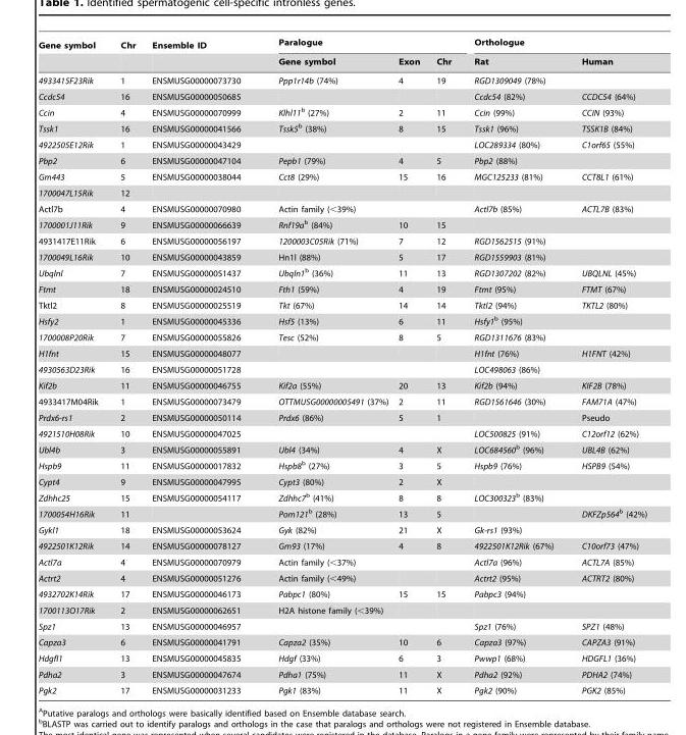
<table><thead><tr><td rowspan="2">Gene symbol</td><td rowspan="2">Chr</td><td rowspan="2">Ensemble ID</td><td colspan="3">Paralogue</td><td colspan="2">Orthologue</td></tr><tr><td>Gene symbol</td><td>Exon</td><td>Chr</td><td>Rat</td><td>Human</td></tr></thead><tbody><tr><td>4933415F23Rik</td><td>1</td><td>ENSMUSG00000073730</td><td>Ppp1r14b (74%)</td><td>4</td><td>19</td><td>RGD1309049 (78%)</td><td></td></tr><tr><td>Ccdc54</td><td>16</td><td>ENSMUSG00000050685</td><td></td><td></td><td></td><td>Ccdc54 (82%)</td><td>CCDC54 (64%)</td></tr><tr><td>Ccin</td><td>4</td><td>ENSMUSG00000070999</td><td>Klhl11b (27%)</td><td>2</td><td>11</td><td>Ccin (99%)</td><td>CCIN (93%)</td></tr><tr><td>Tssk1</td><td>16</td><td>ENSMUSG00000041566</td><td>Tssk5b (38%)</td><td>8</td><td>15</td><td>Tssk1 (96%)</td><td>TSSK1B (84%)</td></tr><tr><td>4922505E12Rik</td><td>1</td><td>ENSMUSG00000043429</td><td></td><td></td><td></td><td>LOC289334 (80%)</td><td>C1orf65 (55%)</td></tr><tr><td>Pbp2</td><td>6</td><td>ENSMUSG00000047104</td><td>Pepb1 (79%)</td><td>4</td><td>5</td><td>Pbp2 (88%)</td><td></td></tr><tr><td>Gm443</td><td>5</td><td>ENSMUSG00000038044</td><td>Cct8 (29%)</td><td>15</td><td>16</td><td>MGC125233 (81%)</td><td>CCT8L1 (61%)</td></tr><tr><td>1700047L15Rik</td><td>12</td><td></td><td></td><td></td><td></td><td></td><td></td></tr><tr><td>Actl7b</td><td>4</td><td>ENSMUSG00000070980</td><td>Actin family (&lt;39%)</td><td></td><td></td><td>Actl7b (85%)</td><td>ACTL7B (83%)</td></tr><tr><td>1700001J11Rik</td><td>9</td><td>ENSMUSG00000066639</td><td>Rnf19ab (84%)</td><td>10</td><td>15</td><td></td><td></td></tr><tr><td>4931417E11Rik</td><td>6</td><td>ENSMUSG00000056197</td><td>1200003C05Rik (71%)</td><td>7</td><td>12</td><td>RGD1562515 (91%)</td><td></td></tr><tr><td>1700049L16Rik</td><td>10</td><td>ENSMUSG00000043859</td><td>Hn1l (88%)</td><td>5</td><td>17</td><td>RGD1559903 (81%)</td><td></td></tr><tr><td>Ubqlnl</td><td>7</td><td>ENSMUSG00000051437</td><td>Ubqln1b (36%)</td><td>11</td><td>13</td><td>RGD1307202 (82%)</td><td>UBQLNL (45%)</td></tr><tr><td>Ftmt</td><td>18</td><td>ENSMUSG00000024510</td><td>Fth1 (59%)</td><td>4</td><td>19</td><td>Ftmt (95%)</td><td>FTMT (67%)</td></tr><tr><td>Tktl2</td><td>8</td><td>ENSMUSG00000025519</td><td>Tkt (67%)</td><td>14</td><td>14</td><td>Tktl2 (94%)</td><td>TKTL2 (80%)</td></tr><tr><td>Hsfy2</td><td>1</td><td>ENSMUSG00000045336</td><td>Hsf5 (13%)</td><td>6</td><td>11</td><td>Hsfy1b (95%)</td><td></td></tr><tr><td>1700008P20Rik</td><td>7</td><td>ENSMUSG00000055826</td><td>Tesc (52%)</td><td>8</td><td>5</td><td>RGD1311676 (83%)</td><td></td></tr><tr><td>H1fnt</td><td>15</td><td>ENSMUSG00000048077</td><td></td><td></td><td></td><td>H1fnt (76%)</td><td>H1FNT (42%)</td></tr><tr><td>4930563D23Rik</td><td>16</td><td>ENSMUSG00000051728</td><td></td><td></td><td></td><td>LOC498063 (86%)</td><td></td></tr><tr><td>Kif2b</td><td>11</td><td>ENSMUSG00000046755</td><td>Kif2a (55%)</td><td>20</td><td>13</td><td>Kif2b (94%)</td><td>KIF2B (78%)</td></tr><tr><td>4933417M04Rik</td><td>1</td><td>ENSMUSG00000073479</td><td>OTTMUSG00000005491 (37%)</td><td>2</td><td>11</td><td>RGD1561646 (30%)</td><td>FAM71A (47%)</td></tr><tr><td>Prdx6-rs1</td><td>2</td><td>ENSMUSG00000050114</td><td>Prdx6 (86%)</td><td>5</td><td>1</td><td></td><td>Pseudo</td></tr><tr><td>4921510H08Rik</td><td>10</td><td>ENSMUSG00000047025</td><td></td><td></td><td></td><td>LOC500825 (91%)</td><td>C12orf12 (62%)</td></tr><tr><td>Ubl4b</td><td>3</td><td>ENSMUSG00000055891</td><td>Ubl4 (34%)</td><td>4</td><td>X</td><td>LOC684560b (96%)</td><td>UBL4B (62%)</td></tr><tr><td>Hspb9</td><td>11</td><td>ENSMUSG00000017832</td><td>Hspb8b (27%)</td><td>3</td><td>5</td><td>Hspb9 (76%)</td><td>HSPB9 (54%)</td></tr><tr><td>Cypt4</td><td>9</td><td>ENSMUSG00000047995</td><td>Cypt3 (80%)</td><td>2</td><td>X</td><td></td><td></td></tr><tr><td>Zdhhc25</td><td>15</td><td>ENSMUSG00000054117</td><td>Zdhhc7b (41%)</td><td>8</td><td>8</td><td>LOC300323b (83%)</td><td></td></tr><tr><td>1700054H16Rik</td><td>11</td><td></td><td>Pom121b (28%)</td><td>13</td><td>5</td><td></td><td>DKFZp564b (42%)</td></tr><tr><td>Gykl1</td><td>18</td><td>ENSMUSG00000053624</td><td>Gyk (82%)</td><td>21</td><td>X</td><td>Gk-rs1 (93%)</td><td></td></tr><tr><td>4922501K12Rik</td><td>14</td><td>ENSMUSG00000078127</td><td>Gm93 (17%)</td><td>4</td><td>8</td><td>4922501K12Rik (67%)</td><td>C10orf73 (47%)</td></tr><tr><td>Actl7a</td><td>4</td><td>ENSMUSG00000070979</td><td>Actin family (&lt;37%)</td><td></td><td></td><td>Actl7a (96%)</td><td>ACTL7A (85%)</td></tr><tr><td>Actrt2</td><td>4</td><td>ENSMUSG00000051276</td><td>Actin family (&lt;49%)</td><td></td><td></td><td>Actrt2 (95%)</td><td>ACTRT2 (80%)</td></tr><tr><td>4932702K14Rik</td><td>17</td><td>ENSMUSG00000046173</td><td>Pabpc1 (80%)</td><td>15</td><td>15</td><td>Pabpc3 (94%)</td><td></td></tr><tr><td>1700113O17Rik</td><td>2</td><td>ENSMUSG00000062651</td><td>H2A histone family (&lt;39%)</td><td></td><td></td><td></td><td></td></tr><tr><td>Spz1</td><td>13</td><td>ENSMUSG00000046957</td><td></td><td></td><td></td><td>Spz1 (76%)</td><td>SPZ1 (48%)</td></tr><tr><td>Capza3</td><td>6</td><td>ENSMUSG00000041791</td><td>Capza2 (35%)</td><td>10</td><td>6</td><td>Capza3 (97%)</td><td>CAPZA3 (91%)</td></tr><tr><td>Hdgfl1</td><td>13</td><td>ENSMUSG00000045835</td><td>Hdgf (33%)</td><td>6</td><td>3</td><td>Pwwp1 (68%)</td><td>HDGFL1 (36%)</td></tr><tr><td>Pdha2</td><td>3</td><td>ENSMUSG00000047674</td><td>Pdha1 (75%)</td><td>11</td><td>X</td><td>Pdha2 (92%)</td><td>PDHA2 (74%)</td></tr><tr><td>Pgk2</td><td>17</td><td>ENSMUSG00000031233</td><td>Pgk1 (83%)</td><td>11</td><td>X</td><td>Pgk2 (90%)</td><td>PGK2 (85%)</td></tr></tbody></table>